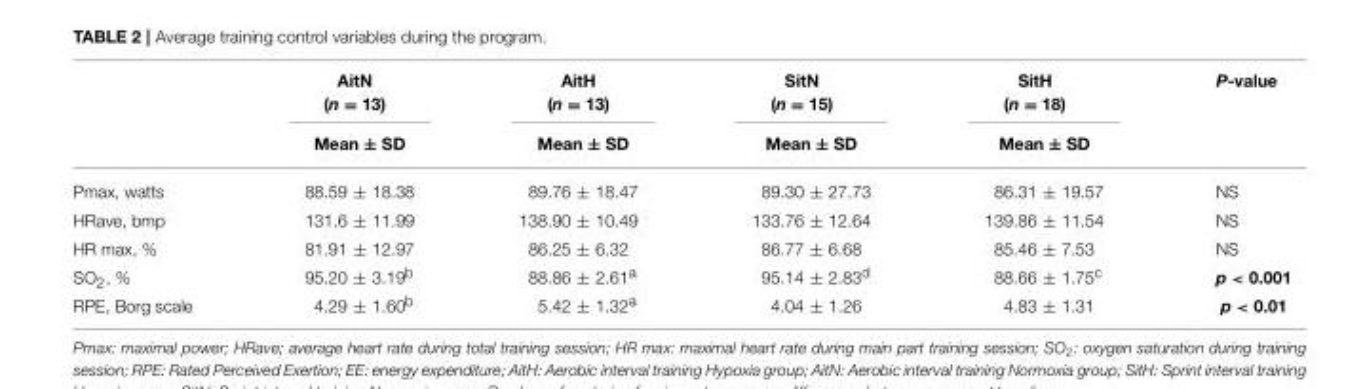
<table><thead><tr><td rowspan="2"></td><td rowspan="2">AitN (n = 13) Mean ± SD</td><td rowspan="2">AitH (n = 13) Mean ± SD</td><td rowspan="2">SitN (n = 15) Mean ± SD</td><td rowspan="2">SitH (n = 18) Mean ± SD</td><td rowspan="2">P-value</td></tr><tr></tr></thead><tbody><tr><td>Pmax, watts</td><td>88.59 ± 18.38</td><td>89.76 ± 18.47</td><td>89.30 ± 27.73</td><td>86.31 ± 19.57</td><td>NS</td></tr><tr><td>HRave, bmp</td><td>131.6 ± 11.99</td><td>138.90 ± 10.49</td><td>133.76 ± 12.64</td><td>139.86 ± 11.54</td><td>NS</td></tr><tr><td>HR max, %</td><td>81.91 ± 12.97</td><td>86.25 ± 6.32</td><td>86.77 ± 6.68</td><td>85.46 ± 7.53</td><td>NS</td></tr><tr><td>SO<sub>2</sub>, %</td><td>95.20 ± 3.19<sup>b</sup></td><td>88.86 ± 2.61<sup>a</sup></td><td>95.14 ± 2.83<sup>d</sup></td><td>88.66 ± 1.75<sup>c</sup></td><td>p &lt; 0.001</td></tr><tr><td>RPE, Borg scale</td><td>4.29 ± 1.60<sup>b</sup></td><td>5.42 ± 1.32<sup>a</sup></td><td>4.04 ± 1.26</td><td>4.83 ± 1.31</td><td>p &lt; 0.01</td></tr></tbody></table>